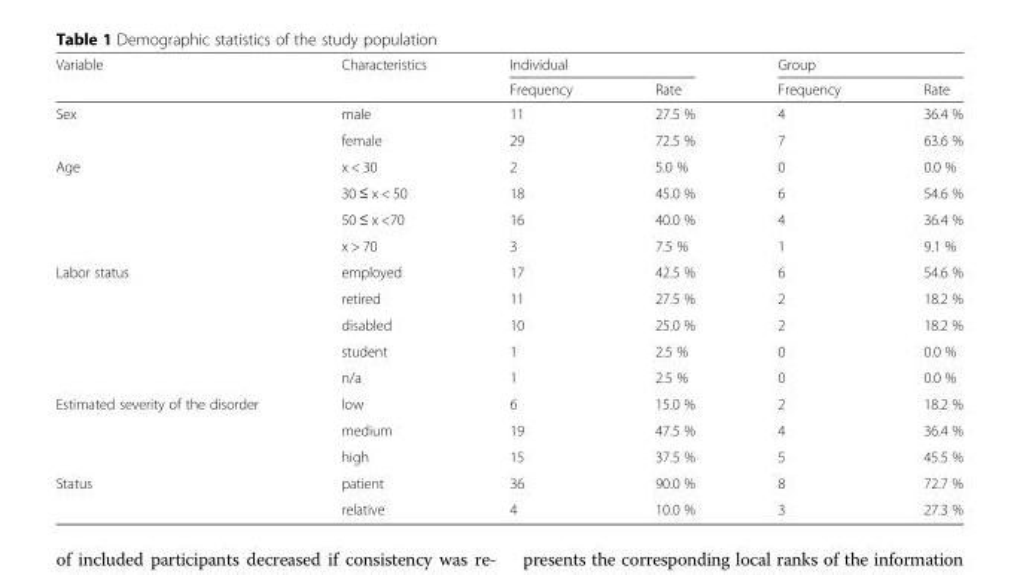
<table><thead><tr><td rowspan="2">Variable</td><td rowspan="2">Characteristics</td><td colspan="2">Individual</td><td colspan="2">Group</td></tr><tr><td>Frequency</td><td>Rate</td><td>Frequency</td><td>Rate</td></tr></thead><tbody><tr><td rowspan="2">Sex</td><td>male</td><td>11</td><td>27.5 %</td><td>4</td><td>36.4 %</td></tr><tr><td>female</td><td>29</td><td>72.5 %</td><td>7</td><td>63.6 %</td></tr><tr><td rowspan="4">Age</td><td>x &lt; 30</td><td>2</td><td>5.0 %</td><td>0</td><td>0.0 %</td></tr><tr><td>30 ≤ x &lt; 50</td><td>18</td><td>45.0 %</td><td>6</td><td>54.6 %</td></tr><tr><td>50 ≤ x &lt;70</td><td>16</td><td>40.0 %</td><td>4</td><td>36.4 %</td></tr><tr><td>x &gt; 70</td><td>3</td><td>7.5 %</td><td>1</td><td>9.1 %</td></tr><tr><td rowspan="5">Labor status</td><td>employed</td><td>17</td><td>42.5 %</td><td>6</td><td>54.6 %</td></tr><tr><td>retired</td><td>11</td><td>27.5 %</td><td>2</td><td>18.2 %</td></tr><tr><td>disabled</td><td>10</td><td>25.0 %</td><td>2</td><td>18.2 %</td></tr><tr><td>student</td><td>1</td><td>2.5 %</td><td>0</td><td>0.0 %</td></tr><tr><td>n/a</td><td>1</td><td>2.5 %</td><td>0</td><td>0.0 %</td></tr><tr><td rowspan="3">Estimated severity of the disorder</td><td>low</td><td>6</td><td>15.0 %</td><td>2</td><td>18.2 %</td></tr><tr><td>medium</td><td>19</td><td>47.5 %</td><td>4</td><td>36.4 %</td></tr><tr><td>high</td><td>15</td><td>37.5 %</td><td>5</td><td>45.5 %</td></tr><tr><td rowspan="2">Status</td><td>patient</td><td>36</td><td>90.0 %</td><td>8</td><td>72.7 %</td></tr><tr><td>relative</td><td>4</td><td>10.0 %</td><td>3</td><td>27.3 %</td></tr></tbody></table>